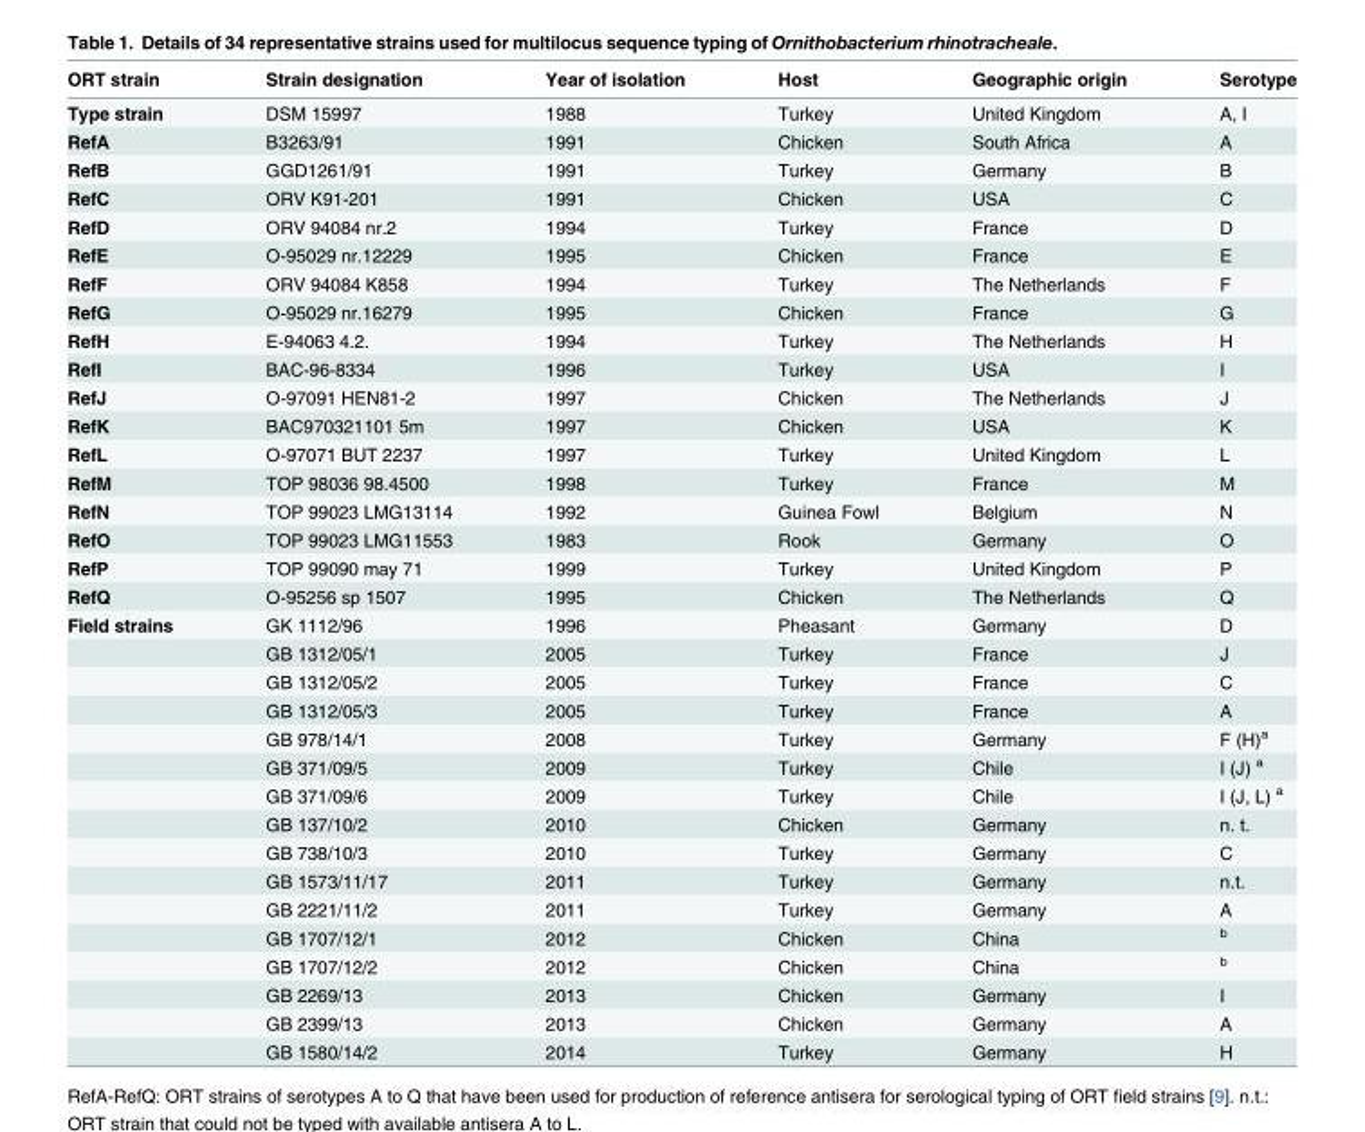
<table><thead><tr><td>ORT strain</td><td>Strain designation</td><td>Year of isolation</td><td>Host</td><td>Geographic origin</td><td>Serotype</td></tr></thead><tbody><tr><td>Type strain</td><td>DSM 15997</td><td>1988</td><td>Turkey</td><td>United Kingdom</td><td>A, I</td></tr><tr><td>RefA</td><td>B3263/91</td><td>1991</td><td>Chicken</td><td>South Africa</td><td>A</td></tr><tr><td>RefB</td><td>GGD1261/91</td><td>1991</td><td>Turkey</td><td>Germany</td><td>B</td></tr><tr><td>RefC</td><td>ORV K91-201</td><td>1991</td><td>Chicken</td><td>USA</td><td>C</td></tr><tr><td>RefD</td><td>ORV 94084 nr.2</td><td>1994</td><td>Turkey</td><td>France</td><td>D</td></tr><tr><td>RefE</td><td>O-95029 nr.12229</td><td>1995</td><td>Chicken</td><td>France</td><td>E</td></tr><tr><td>RefF</td><td>ORV 94084 K858</td><td>1994</td><td>Turkey</td><td>The Netherlands</td><td>F</td></tr><tr><td>RefG</td><td>O-95029 nr.16279</td><td>1995</td><td>Chicken</td><td>France</td><td>G</td></tr><tr><td>RefH</td><td>E-94063 4.2.</td><td>1994</td><td>Turkey</td><td>The Netherlands</td><td>H</td></tr><tr><td>RefI</td><td>BAC-96-8334</td><td>1996</td><td>Turkey</td><td>USA</td><td>I</td></tr><tr><td>RefJ</td><td>O-97091 HEN81-2</td><td>1997</td><td>Chicken</td><td>The Netherlands</td><td>J</td></tr><tr><td>RefK</td><td>BAC970321101 5m</td><td>1997</td><td>Chicken</td><td>USA</td><td>K</td></tr><tr><td>RefL</td><td>O-97071 BUT 2237</td><td>1997</td><td>Turkey</td><td>United Kingdom</td><td>L</td></tr><tr><td>RefM</td><td>TOP 98036 98.4500</td><td>1998</td><td>Turkey</td><td>France</td><td>M</td></tr><tr><td>RefN</td><td>TOP 99023 LMG13114</td><td>1992</td><td>Guinea Fowl</td><td>Belgium</td><td>N</td></tr><tr><td>RefO</td><td>TOP 99023 LMG11553</td><td>1983</td><td>Rook</td><td>Germany</td><td>O</td></tr><tr><td>RefP</td><td>TOP 99090 may 71</td><td>1999</td><td>Turkey</td><td>United Kingdom</td><td>P</td></tr><tr><td>RefQ</td><td>O-95256 sp 1507</td><td>1995</td><td>Chicken</td><td>The Netherlands</td><td>Q</td></tr><tr><td rowspan="16">Field strains</td><td>GK 1112/96</td><td>1996</td><td>Pheasant</td><td>Germany</td><td>D</td></tr><tr><td>GB 1312/05/1</td><td>2005</td><td>Turkey</td><td>France</td><td>J</td></tr><tr><td>GB 1312/05/2</td><td>2005</td><td>Turkey</td><td>France</td><td>C</td></tr><tr><td>GB 1312/05/3</td><td>2005</td><td>Turkey</td><td>France</td><td>A</td></tr><tr><td>GB 978/14/1</td><td>2008</td><td>Turkey</td><td>Germany</td><td>F (H)<sup>a</sup></td></tr><tr><td>GB 371/09/5</td><td>2009</td><td>Turkey</td><td>Chile</td><td>I (J) <sup>a</sup></td></tr><tr><td>GB 371/09/6</td><td>2009</td><td>Turkey</td><td>Chile</td><td>I (J, L) <sup>a</sup></td></tr><tr><td>GB 137/10/2</td><td>2010</td><td>Chicken</td><td>Germany</td><td>n. t.</td></tr><tr><td>GB 738/10/3</td><td>2010</td><td>Turkey</td><td>Germany</td><td>C</td></tr><tr><td>GB 1573/11/17</td><td>2011</td><td>Turkey</td><td>Germany</td><td>n.t.</td></tr><tr><td>GB 2221/11/2</td><td>2011</td><td>Turkey</td><td>Germany</td><td>A</td></tr><tr><td>GB 1707/12/1</td><td>2012</td><td>Chicken</td><td>China</td><td><sup>b</sup></td></tr><tr><td>GB 1707/12/2</td><td>2012</td><td>Chicken</td><td>China</td><td><sup>b</sup></td></tr><tr><td>GB 2269/13</td><td>2013</td><td>Chicken</td><td>Germany</td><td>I</td></tr><tr><td>GB 2399/13</td><td>2013</td><td>Chicken</td><td>Germany</td><td>A</td></tr><tr><td>GB 1580/14/2</td><td>2014</td><td>Turkey</td><td>Germany</td><td>H</td></tr></tbody></table>